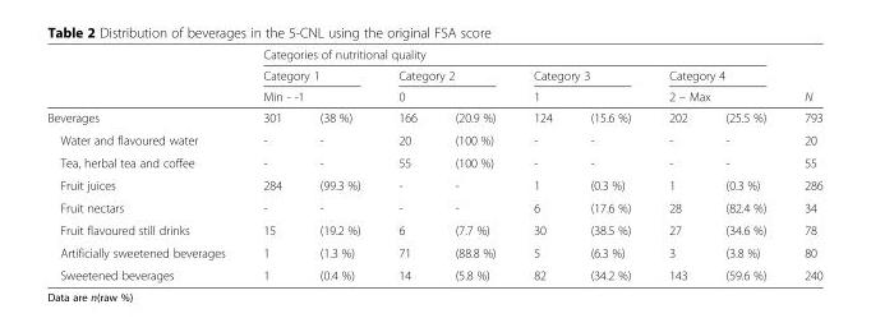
<table><thead><tr><td rowspan="4">Beverages</td><td colspan="8">Categories of nutritional quality</td><td rowspan="4">N 793</td></tr><tr><td rowspan="2" colspan="2">Category 1 Min - -1</td><td rowspan="2" colspan="2">Category 2 0</td><td rowspan="2" colspan="2">Category 3 1</td><td rowspan="2" colspan="2">Category 4 2 – Max</td></tr><tr></tr><tr><td>301</td><td>(38 %)</td><td>166</td><td>(20.9 %)</td><td>124</td><td>(15.6 %)</td><td>202</td><td>(25.5 %)</td></tr></thead><tbody><tr><td>Water and flavoured water</td><td>-</td><td>-</td><td>20</td><td>(100 %)</td><td>-</td><td>-</td><td>-</td><td>-</td><td>20</td></tr><tr><td>Tea, herbal tea and coffee</td><td>-</td><td>-</td><td>55</td><td>(100 %)</td><td>-</td><td>-</td><td>-</td><td>-</td><td>55</td></tr><tr><td>Fruit juices</td><td>284</td><td>(99.3 %)</td><td>-</td><td>-</td><td>1</td><td>(0.3 %)</td><td>1</td><td>(0.3 %)</td><td>286</td></tr><tr><td>Fruit nectars</td><td>-</td><td>-</td><td>-</td><td>-</td><td>6</td><td>(17.6 %)</td><td>28</td><td>(82.4 %)</td><td>34</td></tr><tr><td>Fruit flavoured still drinks</td><td>15</td><td>(19.2 %)</td><td>6</td><td>(7.7 %)</td><td>30</td><td>(38.5 %)</td><td>27</td><td>(34.6 %)</td><td>78</td></tr><tr><td>Artificially sweetened beverages</td><td>1</td><td>(1.3 %)</td><td>71</td><td>(88.8 %)</td><td>5</td><td>(6.3 %)</td><td>3</td><td>(3.8 %)</td><td>80</td></tr><tr><td>Sweetened beverages</td><td>1</td><td>(0.4 %)</td><td>14</td><td>(5.8 %)</td><td>82</td><td>(34.2 %)</td><td>143</td><td>(59.6 %)</td><td>240</td></tr></tbody></table>